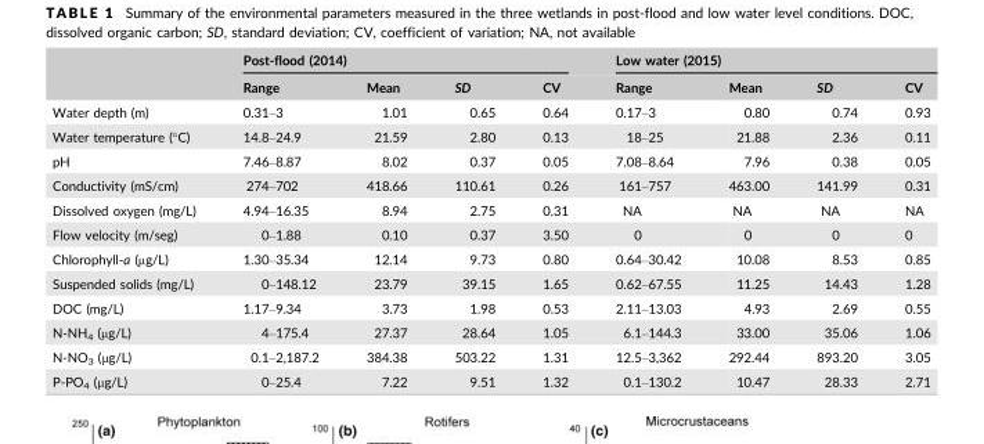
<table><thead><tr><td rowspan="2"></td><td colspan="4">Post-flood (2014)</td><td colspan="4">Low water (2015)</td></tr><tr><td>Range</td><td>Mean</td><td>SD</td><td>CV</td><td>Range</td><td>Mean</td><td>SD</td><td>CV</td></tr></thead><tbody><tr><td>Water depth (m)</td><td>0.31–3</td><td>1.01</td><td>0.65</td><td>0.64</td><td>0.17–3</td><td>0.80</td><td>0.74</td><td>0.93</td></tr><tr><td>Water temperature (°C)</td><td>14.8–24.9</td><td>21.59</td><td>2.80</td><td>0.13</td><td>18–25</td><td>21.88</td><td>2.36</td><td>0.11</td></tr><tr><td>pH</td><td>7.46–8.87</td><td>8.02</td><td>0.37</td><td>0.05</td><td>7.08–8.64</td><td>7.96</td><td>0.38</td><td>0.05</td></tr><tr><td>Conductivity (mS/cm)</td><td>274–702</td><td>418.66</td><td>110.61</td><td>0.26</td><td>161–757</td><td>463.00</td><td>141.99</td><td>0.31</td></tr><tr><td>Dissolved oxygen (mg/L)</td><td>4.94–16.35</td><td>8.94</td><td>2.75</td><td>0.31</td><td>NA</td><td>NA</td><td>NA</td><td>NA</td></tr><tr><td>Flow velocity (m/seg)</td><td>0–1.88</td><td>0.10</td><td>0.37</td><td>3.50</td><td>0</td><td>0</td><td>0</td><td>0</td></tr><tr><td>Chlorophyll-a (μg/L)</td><td>1.30–35.34</td><td>12.14</td><td>9.73</td><td>0.80</td><td>0.64–30.42</td><td>10.08</td><td>8.53</td><td>0.85</td></tr><tr><td>Suspended solids (mg/L)</td><td>0–148.12</td><td>23.79</td><td>39.15</td><td>1.65</td><td>0.62–67.55</td><td>11.25</td><td>14.43</td><td>1.28</td></tr><tr><td>DOC (mg/L)</td><td>1.17–9.34</td><td>3.73</td><td>1.98</td><td>0.53</td><td>2.11–13.03</td><td>4.93</td><td>2.69</td><td>0.55</td></tr><tr><td>N-NH<sub>4</sub> (μg/L)</td><td>4–175.4</td><td>27.37</td><td>28.64</td><td>1.05</td><td>6.1–144.3</td><td>33.00</td><td>35.06</td><td>1.06</td></tr><tr><td>N-NO<sub>3</sub> (μg/L)</td><td>0.1–2,187.2</td><td>384.38</td><td>503.22</td><td>1.31</td><td>12.5–3,362</td><td>292.44</td><td>893.20</td><td>3.05</td></tr><tr><td>P-PO<sub>4</sub> (μg/L)</td><td>0–25.4</td><td>7.22</td><td>9.51</td><td>1.32</td><td>0.1–130.2</td><td>10.47</td><td>28.33</td><td>2.71</td></tr></tbody></table>